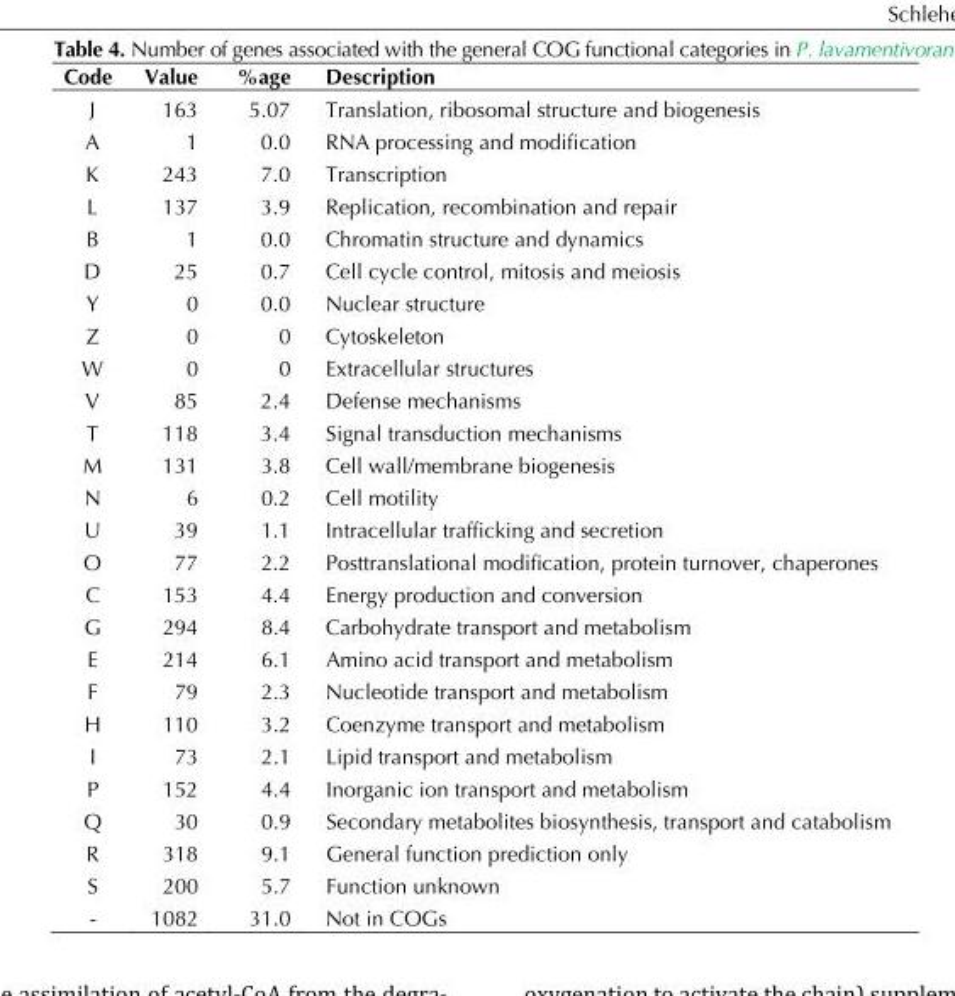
<table><thead><tr><td>Code</td><td>Value</td><td>%age</td><td>Description</td></tr></thead><tbody><tr><td>J</td><td>163</td><td>5.07</td><td>Translation, ribosomal structure and biogenesis</td></tr><tr><td>A</td><td>1</td><td>0.0</td><td>RNA processing and modification</td></tr><tr><td>K</td><td>243</td><td>7.0</td><td>Transcription</td></tr><tr><td>L</td><td>137</td><td>3.9</td><td>Replication, recombination and repair</td></tr><tr><td>B</td><td>1</td><td>0.0</td><td>Chromatin structure and dynamics</td></tr><tr><td>D</td><td>25</td><td>0.7</td><td>Cell cycle control, mitosis and meiosis</td></tr><tr><td>Y</td><td>0</td><td>0.0</td><td>Nuclear structure</td></tr><tr><td>Z</td><td>0</td><td>0</td><td>Cytoskeleton</td></tr><tr><td>W</td><td>0</td><td>0</td><td>Extracellular structures</td></tr><tr><td>V</td><td>85</td><td>2.4</td><td>Defense mechanisms</td></tr><tr><td>T</td><td>118</td><td>3.4</td><td>Signal transduction mechanisms</td></tr><tr><td>M</td><td>131</td><td>3.8</td><td>Cell wall/membrane biogenesis</td></tr><tr><td>N</td><td>6</td><td>0.2</td><td>Cell motility</td></tr><tr><td>U</td><td>39</td><td>1.1</td><td>Intracellular trafficking and secretion</td></tr><tr><td>O</td><td>77</td><td>2.2</td><td>Posttranslational modification, protein turnover, chaperones</td></tr><tr><td>C</td><td>153</td><td>4.4</td><td>Energy production and conversion</td></tr><tr><td>G</td><td>294</td><td>8.4</td><td>Carbohydrate transport and metabolism</td></tr><tr><td>E</td><td>214</td><td>6.1</td><td>Amino acid transport and metabolism</td></tr><tr><td>F</td><td>79</td><td>2.3</td><td>Nucleotide transport and metabolism</td></tr><tr><td>H</td><td>110</td><td>3.2</td><td>Coenzyme transport and metabolism</td></tr><tr><td>I</td><td>73</td><td>2.1</td><td>Lipid transport and metabolism</td></tr><tr><td>P</td><td>152</td><td>4.4</td><td>Inorganic ion transport and metabolism</td></tr><tr><td>Q</td><td>30</td><td>0.9</td><td>Secondary metabolites biosynthesis, transport and catabolism</td></tr><tr><td>R</td><td>318</td><td>9.1</td><td>General function prediction only</td></tr><tr><td>S</td><td>200</td><td>5.7</td><td>Function unknown</td></tr><tr><td>-</td><td>1082</td><td>31.0</td><td>Not in COGs</td></tr></tbody></table>